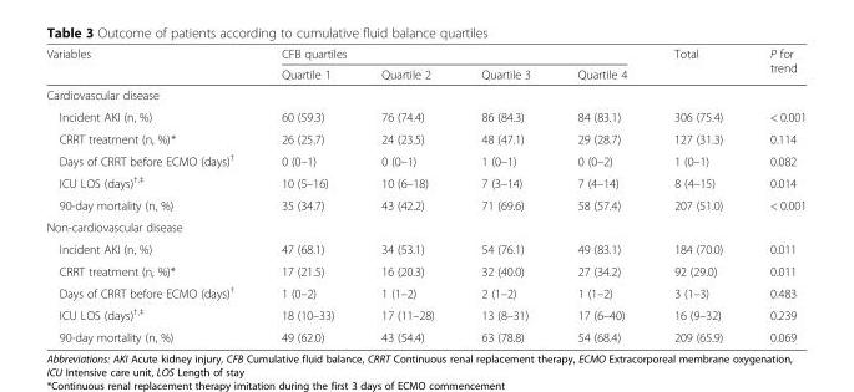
<table><thead><tr><td rowspan="2">Variables</td><td colspan="4">CFB quartiles</td><td rowspan="2">Total</td><td rowspan="2">P for trend</td></tr><tr><td>Quartile 1</td><td>Quartile 2</td><td>Quartile 3</td><td>Quartile 4</td></tr></thead><tbody><tr><td colspan="7">Cardiovascular disease</td></tr><tr><td>Incident AKI (n, %)</td><td>60 (59.3)</td><td>76 (74.4)</td><td>86 (84.3)</td><td>84 (83.1)</td><td>306 (75.4)</td><td>&lt; 0.001</td></tr><tr><td>CRRT treatment (n, %)*</td><td>26 (25.7)</td><td>24 (23.5)</td><td>48 (47.1)</td><td>29 (28.7)</td><td>127 (31.3)</td><td>0.114</td></tr><tr><td>Days of CRRT before ECMO (days)<sup>†</sup></td><td>0 (0–1)</td><td>0 (0–1)</td><td>1 (0–1)</td><td>0 (0–2)</td><td>1 (0–1)</td><td>0.082</td></tr><tr><td>ICU LOS (days)<sup>†,‡</sup></td><td>10 (5–16)</td><td>10 (6–18)</td><td>7 (3–14)</td><td>7 (4–14)</td><td>8 (4–15)</td><td>0.014</td></tr><tr><td>90-day mortality (n, %)</td><td>35 (34.7)</td><td>43 (42.2)</td><td>71 (69.6)</td><td>58 (57.4)</td><td>207 (51.0)</td><td>&lt; 0.001</td></tr><tr><td colspan="7">Non-cardiovascular disease</td></tr><tr><td>Incident AKI (n, %)</td><td>47 (68.1)</td><td>34 (53.1)</td><td>54 (76.1)</td><td>49 (83.1)</td><td>184 (70.0)</td><td>0.011</td></tr><tr><td>CRRT treatment (n, %)*</td><td>17 (21.5)</td><td>16 (20.3)</td><td>32 (40.0)</td><td>27 (34.2)</td><td>92 (29.0)</td><td>0.011</td></tr><tr><td>Days of CRRT before ECMO (days)<sup>†</sup></td><td>1 (0–2)</td><td>1 (1–2)</td><td>2 (1–2)</td><td>1 (1–2)</td><td>3 (1–3)</td><td>0.483</td></tr><tr><td>ICU LOS (days)<sup>†,‡</sup></td><td>18 (10–33)</td><td>17 (11–28)</td><td>13 (8–31)</td><td>17 (6–40)</td><td>16 (9–32)</td><td>0.239</td></tr><tr><td>90-day mortality (n, %)</td><td>49 (62.0)</td><td>43 (54.4)</td><td>63 (78.8)</td><td>54 (68.4)</td><td>209 (65.9)</td><td>0.069</td></tr></tbody></table>